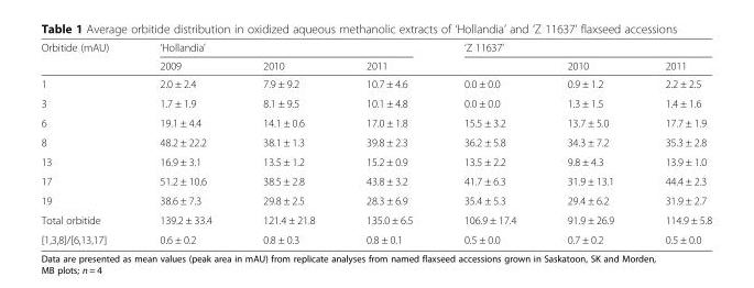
<table><thead><tr><td rowspan="2">Orbitide (mAU)</td><td colspan="3">‘Hollandia’</td><td colspan="3">‘Z 11637’</td></tr><tr><td>2009</td><td>2010</td><td>2011</td><td></td><td>2010</td><td>2011</td></tr></thead><tbody><tr><td>1</td><td>2.0 ± 2.4</td><td>7.9 ± 9.2</td><td>10.7 ± 4.6</td><td>0.0 ± 0.0</td><td>0.9 ± 1.2</td><td>2.2 ± 2.5</td></tr><tr><td>3</td><td>1.7 ± 1.9</td><td>8.1 ± 9.5</td><td>10.1 ± 4.8</td><td>0.0 ± 0.0</td><td>1.3 ± 1.5</td><td>1.4 ± 1.6</td></tr><tr><td>6</td><td>19.1 ± 4.4</td><td>14.1 ± 0.6</td><td>17.0 ± 1.8</td><td>15.5 ± 3.2</td><td>13.7 ± 5.0</td><td>17.7 ± 1.9</td></tr><tr><td>8</td><td>48.2 ± 22.2</td><td>38.1 ± 1.3</td><td>39.8 ± 2.3</td><td>36.2 ± 5.8</td><td>34.3 ± 7.2</td><td>35.3 ± 2.8</td></tr><tr><td>13</td><td>16.9 ± 3.1</td><td>13.5 ± 1.2</td><td>15.2 ± 0.9</td><td>13.5 ± 2.2</td><td>9.8 ± 4.3</td><td>13.9 ± 1.0</td></tr><tr><td>17</td><td>51.2 ± 10.6</td><td>38.5 ± 2.8</td><td>43.8 ± 3.2</td><td>41.7 ± 6.3</td><td>31.9 ± 13.1</td><td>44.4 ± 2.3</td></tr><tr><td>19</td><td>38.6 ± 7.3</td><td>29.8 ± 2.5</td><td>28.3 ± 6.9</td><td>35.4 ± 5.3</td><td>29.4 ± 6.2</td><td>31.9 ± 2.7</td></tr><tr><td>Total orbitide</td><td>139.2 ± 33.4</td><td>121.4 ± 21.8</td><td>135.0 ± 6.5</td><td>106.9 ± 17.4</td><td>91.9 ± 26.9</td><td>114.9 ± 5.8</td></tr><tr><td>[1,3,8]/[6,13,17]</td><td>0.6 ± 0.2</td><td>0.8 ± 0.3</td><td>0.8 ± 0.1</td><td>0.5 ± 0.0</td><td>0.7 ± 0.2</td><td>0.5 ± 0.0</td></tr></tbody></table>